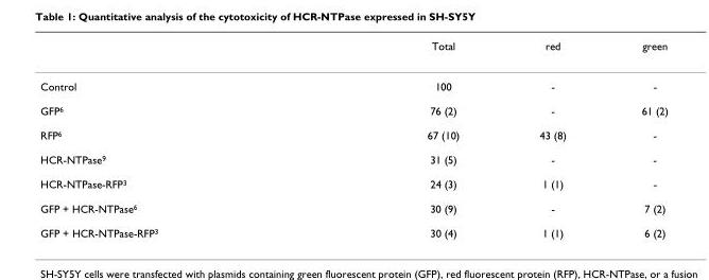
<table><thead><tr><td></td><td>Total</td><td>red</td><td>green</td></tr></thead><tbody><tr><td>Control</td><td>100</td><td>-</td><td>-</td></tr><tr><td>GFP<sup>6</sup></td><td>76 (2)</td><td>-</td><td>61 (2)</td></tr><tr><td>RFP<sup>6</sup></td><td>67 (10)</td><td>43 (8)</td><td>-</td></tr><tr><td>HCR-NTPase<sup>9</sup></td><td>31 (5)</td><td>-</td><td>-</td></tr><tr><td>HCR-NTPase-RFP<sup>3</sup></td><td>24 (3)</td><td>1 (1)</td><td>-</td></tr><tr><td>GFP + HCR-NTPase<sup>6</sup></td><td>30 (9)</td><td>-</td><td>7 (2)</td></tr><tr><td>GFP + HCR-NTPase-RFP<sup>3</sup></td><td>30 (4)</td><td>1 (1)</td><td>6 (2)</td></tr></tbody></table>